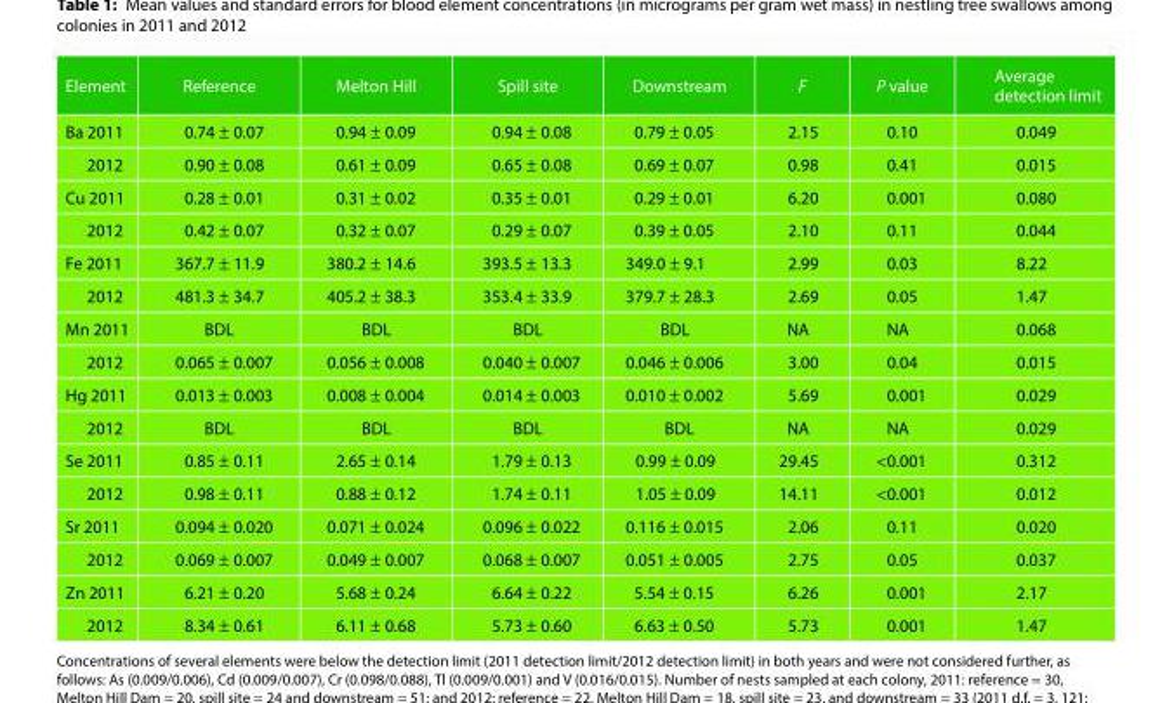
<table><thead><tr><td>Element</td><td>Reference</td><td>Melton Hill</td><td>Spill site</td><td>Downstream</td><td>F</td><td>P value</td><td>Average detection limit</td></tr></thead><tbody><tr><td>Ba 2011</td><td>0.74 ± 0.07</td><td>0.94 ± 0.09</td><td>0.94 ± 0.08</td><td>0.79 ± 0.05</td><td>2.15</td><td>0.10</td><td>0.049</td></tr><tr><td>2012</td><td>0.90 ± 0.08</td><td>0.61 ± 0.09</td><td>0.65 ± 0.08</td><td>0.69 ± 0.07</td><td>0.98</td><td>0.41</td><td>0.015</td></tr><tr><td>Cu 2011</td><td>0.28 ± 0.01</td><td>0.31 ± 0.02</td><td>0.35 ± 0.01</td><td>0.29 ± 0.01</td><td>6.20</td><td>0.001</td><td>0.080</td></tr><tr><td>2012</td><td>0.42 ± 0.07</td><td>0.32 ± 0.07</td><td>0.29 ± 0.07</td><td>0.39 ± 0.05</td><td>2.10</td><td>0.11</td><td>0.044</td></tr><tr><td>Fe 2011</td><td>367.7 ± 11.9</td><td>380.2 ± 14.6</td><td>393.5 ± 13.3</td><td>349.0 ± 9.1</td><td>2.99</td><td>0.03</td><td>8.22</td></tr><tr><td>2012</td><td>481.3 ± 34.7</td><td>405.2 ± 38.3</td><td>353.4 ± 33.9</td><td>379.7 ± 28.3</td><td>2.69</td><td>0.05</td><td>1.47</td></tr><tr><td>Mn 2011</td><td>BDL</td><td>BDL</td><td>BDL</td><td>BDL</td><td>NA</td><td>NA</td><td>0.068</td></tr><tr><td>2012</td><td>0.065 ± 0.007</td><td>0.056 ± 0.008</td><td>0.040 ± 0.007</td><td>0.046 ± 0.006</td><td>3.00</td><td>0.04</td><td>0.015</td></tr><tr><td>Hg 2011</td><td>0.013 ± 0.003</td><td>0.008 ± 0.004</td><td>0.014 ± 0.003</td><td>0.010 ± 0.002</td><td>5.69</td><td>0.001</td><td>0.029</td></tr><tr><td>2012</td><td>BDL</td><td>BDL</td><td>BDL</td><td>BDL</td><td>NA</td><td>NA</td><td>0.029</td></tr><tr><td>Se 2011</td><td>0.85 ± 0.11</td><td>2.65 ± 0.14</td><td>1.79 ± 0.13</td><td>0.99 ± 0.09</td><td>29.45</td><td>&lt;0.001</td><td>0.312</td></tr><tr><td>2012</td><td>0.98 ± 0.11</td><td>0.88 ± 0.12</td><td>1.74 ± 0.11</td><td>1.05 ± 0.09</td><td>14.11</td><td>&lt;0.001</td><td>0.012</td></tr><tr><td>Sr 2011</td><td>0.094 ± 0.020</td><td>0.071 ± 0.024</td><td>0.096 ± 0.022</td><td>0.116 ± 0.015</td><td>2.06</td><td>0.11</td><td>0.020</td></tr><tr><td>2012</td><td>0.069 ± 0.007</td><td>0.049 ± 0.007</td><td>0.068 ± 0.007</td><td>0.051 ± 0.005</td><td>2.75</td><td>0.05</td><td>0.037</td></tr><tr><td>Zn 2011</td><td>6.21 ± 0.20</td><td>5.68 ± 0.24</td><td>6.64 ± 0.22</td><td>5.54 ± 0.15</td><td>6.26</td><td>0.001</td><td>2.17</td></tr><tr><td>2012</td><td>8.34 ± 0.61</td><td>6.11 ± 0.68</td><td>5.73 ± 0.60</td><td>6.63 ± 0.50</td><td>5.73</td><td>0.001</td><td>1.47</td></tr></tbody></table>